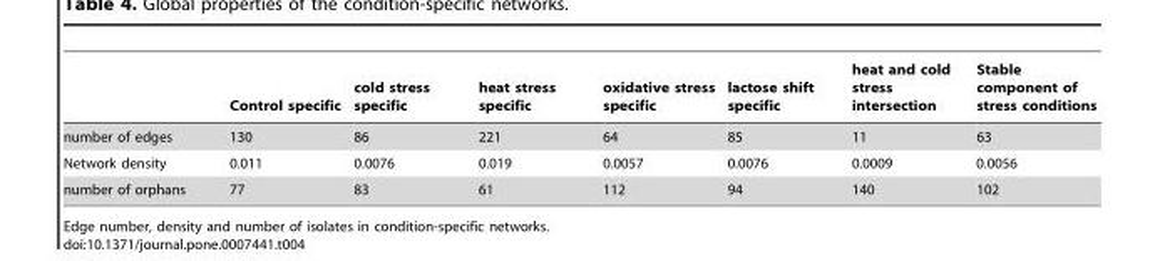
<table><thead><tr><td></td><td>Control specific</td><td>cold stress specific</td><td>heat stress specific</td><td>oxidative stress specific</td><td>lactose shift specific</td><td>heat and cold stress intersection</td><td>Stable component of stress conditions</td></tr></thead><tbody><tr><td>number of edges</td><td>130</td><td>86</td><td>221</td><td>64</td><td>85</td><td>11</td><td>63</td></tr><tr><td>Network density</td><td>0.011</td><td>0.0076</td><td>0.019</td><td>0.0057</td><td>0.0076</td><td>0.0009</td><td>0.0056</td></tr><tr><td>number of orphans</td><td>77</td><td>83</td><td>61</td><td>112</td><td>94</td><td>140</td><td>102</td></tr></tbody></table>